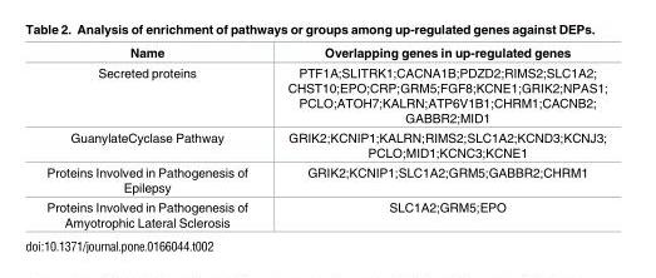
<table><thead><tr><td>Name</td><td>Overlapping genes in up-regulated genes</td></tr></thead><tbody><tr><td>Secreted proteins</td><td>PTF1A;SLITRK1;CACNA1B;PDZD2;RIMS2;SLC1A2; CHST10;EPO;CRP;GRM5;FGF8;KCNE1;GRIK2;NPAS1; PCLO;ATOH7;KALRN;ATP6V1B1;CHRM1;CACNB2; GABBR2;MID1</td></tr><tr><td>GuanylateCyclase Pathway</td><td>GRIK2;KCNIP1;KALRN;RIMS2;SLC1A2;KCND3;KCNJ3; PCLO;MID1;KCNC3;KCNE1</td></tr><tr><td>Proteins Involved in Pathogenesis of Epilepsy</td><td>GRIK2;KCNIP1;SLC1A2;GRM5;GABBR2;CHRM1</td></tr><tr><td>Proteins Involved in Pathogenesis of Amyotrophic Lateral Sclerosis</td><td>SLC1A2;GRM5;EPO</td></tr></tbody></table>